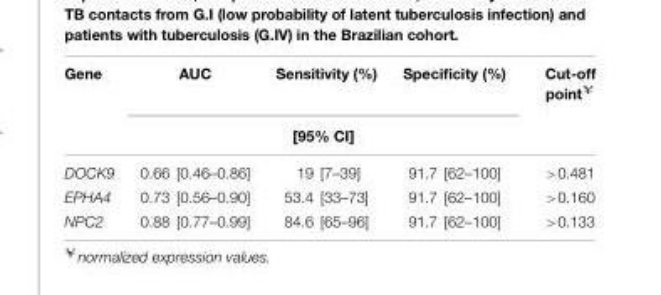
<table><thead><tr><td rowspan="2">Gene</td><td>AUC</td><td>Sensitivity (%)</td><td>Specificity (%)</td><td rowspan="2">Cut-off point<sup>¥</sup></td></tr><tr><td colspan="3">[95% CI]</td></tr></thead><tbody><tr><td>DOCK9</td><td>0.66 [0.46–0.86]</td><td>19 [7–39]</td><td>91.7 [62–100]</td><td>&gt;0.481</td></tr><tr><td>EPHA4</td><td>0.73 [0.56–0.90]</td><td>53.4 [33–73]</td><td>91.7 [62–100]</td><td>&gt;0.160</td></tr><tr><td>NPC2</td><td>0.88 [0.77–0.99]</td><td>84.6 [65–96]</td><td>91.7 [62–100]</td><td>&gt;0.133</td></tr></tbody></table>